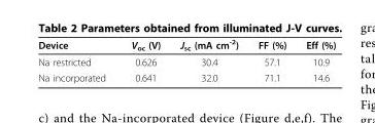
<table><thead><tr><td>Device</td><td>V<sub>oc</sub> (V)</td><td>J<sub>sc</sub> (mA cm<sup>-2</sup>)</td><td>FF (%)</td><td>Eff (%)</td></tr></thead><tbody><tr><td>Na restricted</td><td>0.626</td><td>30.4</td><td>57.1</td><td>10.9</td></tr><tr><td>Na incorporated</td><td>0.641</td><td>32.0</td><td>71.1</td><td>14.6</td></tr></tbody></table>